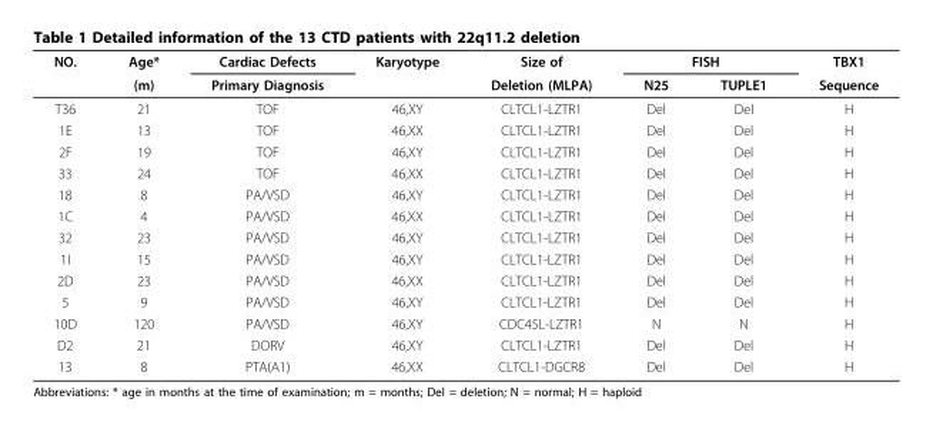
<table><thead><tr><td rowspan="2">NO.</td><td rowspan="2">Age* (m)</td><td rowspan="2">Cardiac Defects Primary Diagnosis</td><td rowspan="2">Karyotype</td><td rowspan="2">Size of Deletion (MLPA)</td><td colspan="2">FISH</td><td rowspan="2">TBX1 Sequence</td></tr><tr><td>N25</td><td>TUPLE1</td></tr></thead><tbody><tr><td>T36</td><td>21</td><td>TOF</td><td>46,XY</td><td>CLTCL1-LZTR1</td><td>Del</td><td>Del</td><td>H</td></tr><tr><td>1E</td><td>13</td><td>TOF</td><td>46,XX</td><td>CLTCL1-LZTR1</td><td>Del</td><td>Del</td><td>H</td></tr><tr><td>2F</td><td>19</td><td>TOF</td><td>46,XY</td><td>CLTCL1-LZTR1</td><td>Del</td><td>Del</td><td>H</td></tr><tr><td>33</td><td>24</td><td>TOF</td><td>46,XX</td><td>CLTCL1-LZTR1</td><td>Del</td><td>Del</td><td>H</td></tr><tr><td>18</td><td>8</td><td>PA/VSD</td><td>46,XY</td><td>CLTCL1-LZTR1</td><td>Del</td><td>Del</td><td>H</td></tr><tr><td>1C</td><td>4</td><td>PA/VSD</td><td>46,XX</td><td>CLTCL1-LZTR1</td><td>Del</td><td>Del</td><td>H</td></tr><tr><td>32</td><td>23</td><td>PA/VSD</td><td>46,XY</td><td>CLTCL1-LZTR1</td><td>Del</td><td>Del</td><td>H</td></tr><tr><td>1I</td><td>15</td><td>PA/VSD</td><td>46,XY</td><td>CLTCL1-LZTR1</td><td>Del</td><td>Del</td><td>H</td></tr><tr><td>2D</td><td>23</td><td>PA/VSD</td><td>46,XX</td><td>CLTCL1-LZTR1</td><td>Del</td><td>Del</td><td>H</td></tr><tr><td>5</td><td>9</td><td>PA/VSD</td><td>46,XY</td><td>CLTCL1-LZTR1</td><td>Del</td><td>Del</td><td>H</td></tr><tr><td>10D</td><td>120</td><td>PA/VSD</td><td>46,XY</td><td>CDC45L-LZTR1</td><td>N</td><td>N</td><td>H</td></tr><tr><td>D2</td><td>21</td><td>DORV</td><td>46,XY</td><td>CLTCL1-LZTR1</td><td>Del</td><td>Del</td><td>H</td></tr><tr><td>13</td><td>8</td><td>PTA(A1)</td><td>46,XX</td><td>CLTCL1-DGCR8</td><td>Del</td><td>Del</td><td>H</td></tr></tbody></table>